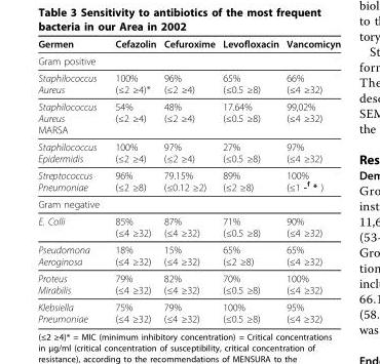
<table><thead><tr><td>Germen</td><td>Cefazolin</td><td>Cefuroxime</td><td>Levofloxacin</td><td>Vancomicyn</td></tr></thead><tbody><tr><td colspan="5">Gram positive</td></tr><tr><td>Staphilococcus Aureus</td><td>100% (≤2 ≥4)*</td><td>96% (≤2 ≥4)</td><td>65% (≤0.5 ≥8)</td><td>66% (≤4 ≥32)</td></tr><tr><td>Staphilococcus Aureus MARSA</td><td>54% (≤2 ≥4)</td><td>48% (≤2 ≥4)</td><td>17.64% (≤0.5 ≥8)</td><td>99,02% (≤4 ≥32)</td></tr><tr><td>Staphilococcus Epidermidis</td><td>100% (≤2 ≥4)</td><td>97% (≤2 ≥4)</td><td>27% (≤0.5 ≥8)</td><td>97% (≤4 ≥32)</td></tr><tr><td>Streptococcus Pneumoniae</td><td>96% (≤2 ≥8)</td><td>79.15% (≤0.12 ≥2)</td><td>89% (≤2 ≥8)</td><td>100% (≤1 -<sup>f</sup> * )</td></tr><tr><td colspan="5">Gram negative</td></tr><tr><td>E. Colli</td><td>85% (≤4 ≥32)</td><td>87% (≤4 ≥32)</td><td>71% (≤0.5 ≥8)</td><td>90% (≤4 ≥32)</td></tr><tr><td>Pseudomona Aeroginosa</td><td>18% (≤4 ≥32)</td><td>15% (≤4 ≥32)</td><td>65% (≤2 ≥8)</td><td>65% (≤4 ≥32)</td></tr><tr><td>Proteus Mirabilis</td><td>79% (≤4 ≥32)</td><td>82% (≤4 ≥32)</td><td>70% (≤0.5 ≥8)</td><td>100% (≤4 ≥32)</td></tr><tr><td>Klebsiella Pneumoniae</td><td>75% (≤4 ≥32)</td><td>79% (≤4 ≥32)</td><td>100% (≤0.5 ≥8)</td><td>95% (≤4 ≥32)</td></tr></tbody></table>